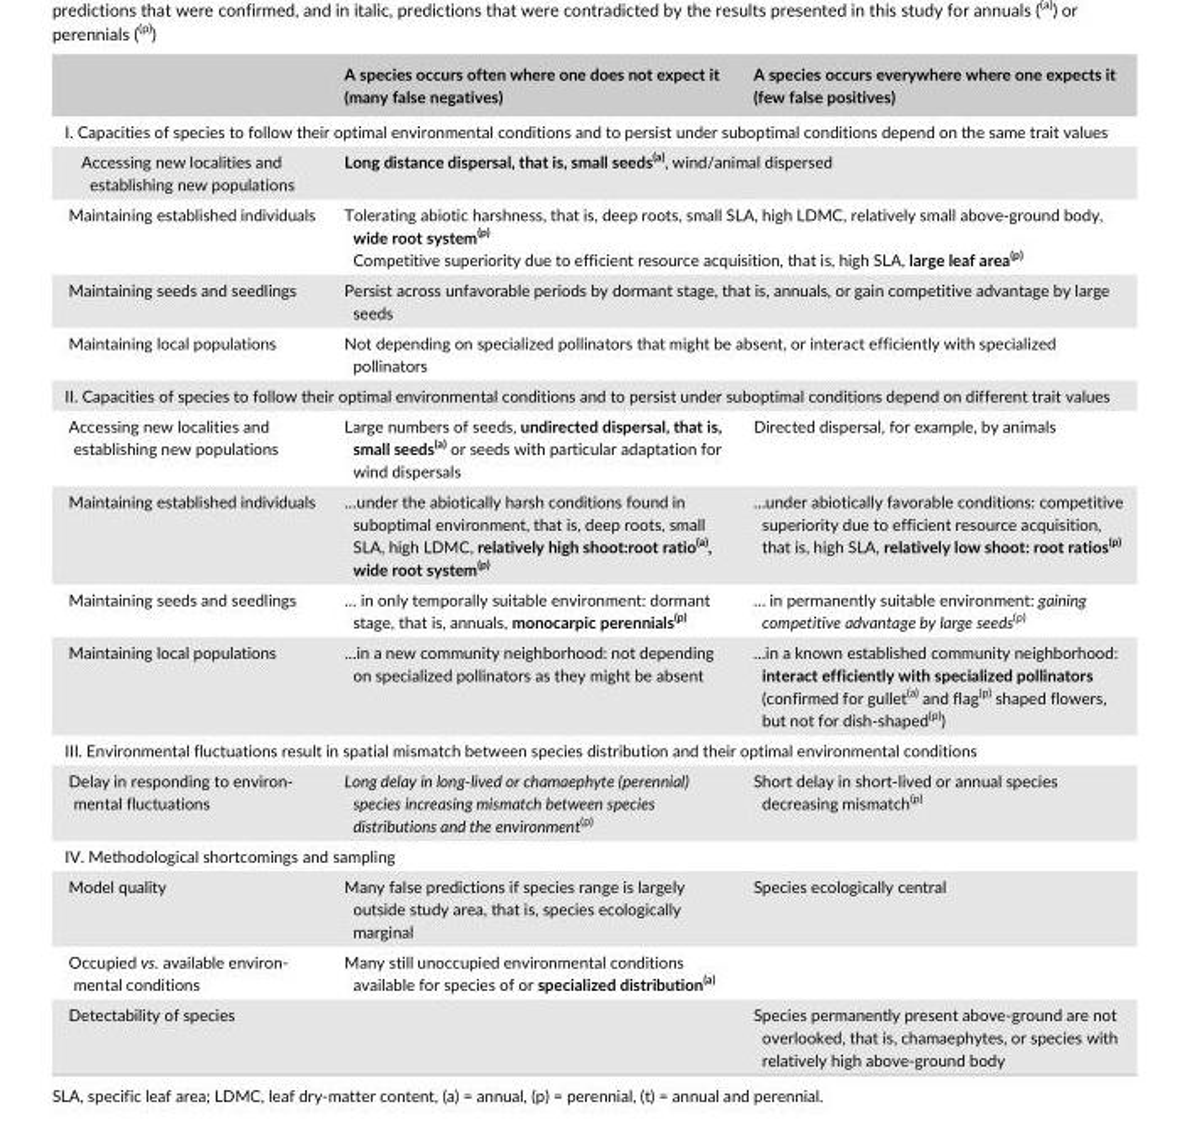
<table><thead><tr><td></td><td>A species occurs often where one does not expect it (many false negatives)</td><td>A species occurs everywhere where one expects it (few false positives)</td></tr></thead><tbody><tr><td colspan="3">I. Capacities of species to follow their optimal environmental conditions and to persist under suboptimal conditions depend on the same trait values</td></tr><tr><td>Accessing new localities and establishing new populations</td><td colspan="2">Long distance dispersal, that is, small seeds<sup>(a)</sup>, wind/animal dispersed</td></tr><tr><td>Maintaining established individuals</td><td colspan="2">Tolerating abiotic harshness, that is, deep roots, small SLA, high LDMC, relatively small above- ground body, wide root system<sup>(p)</sup> Competitive superiority due to efficient resource acquisition, that is, high SLA, large leaf area<sup>(p)</sup></td></tr><tr><td>Maintaining seeds and seedlings</td><td colspan="2">Persist across unfavorable periods by dormant stage, that is, annuals, or gain competitive advantage by large seeds</td></tr><tr><td>Maintaining local populations</td><td colspan="2">Not depending on specialized pollinators that might be absent, or interact efficiently with specialized pollinators</td></tr><tr><td colspan="3">II. Capacities of species to follow their optimal environmental conditions and to persist under suboptimal conditions depend on different trait values</td></tr><tr><td>Accessing new localities and establishing new populations</td><td>Large numbers of seeds, undirected dispersal, that is, small seeds<sup>(a)</sup> or seeds with particular adaptation for wind dispersals</td><td>Directed dispersal, for example, by animals</td></tr><tr><td>Maintaining established individuals</td><td>…under the abiotically harsh conditions found in suboptimal environment, that is, deep roots, small SLA, high LDMC, relatively high shoot:root ratio<sup>(a)</sup>, wide root system<sup>(p)</sup></td><td>…under abiotically favorable conditions: competitive superiority due to efficient resource acquisition, that is, high SLA, relatively low shoot: root ratios<sup>(p)</sup></td></tr><tr><td>Maintaining seeds and seedlings</td><td>… in only temporally suitable environment: dormant stage, that is, annuals, monocarpic perennials<sup>(p)</sup></td><td>… in permanently suitable environment: gaining competitive advantage by large seeds<sup>(p)</sup></td></tr><tr><td>Maintaining local populations</td><td>…in a new community neighborhood: not depending on specialized pollinators as they might be absent</td><td>…in a known established community neighborhood: interact efficiently with specialized pollinators (confirmed for gullet<sup>(a)</sup> and flag<sup>(p)</sup> shaped flowers, but not for dish- shaped<sup>(p)</sup>)</td></tr><tr><td colspan="3">III. Environmental fluctuations result in spatial mismatch between species distribution and their optimal environmental conditions</td></tr><tr><td>Delay in responding to environ- mental fluctuations</td><td>Long delay in long-lived or chamaephyte (perennial) species increasing mismatch between species distributions and the environment<sup>(p)</sup></td><td>Short delay in short- lived or annual species decreasing mismatch<sup>(p)</sup></td></tr><tr><td colspan="3">IV. Methodological shortcomings and sampling</td></tr><tr><td>Model quality</td><td>Many false predictions if species range is largely outside study area, that is, species ecologically marginal</td><td>Species ecologically central</td></tr><tr><td>Occupied vs. available environ- mental conditions</td><td>Many still unoccupied environmental conditions available for species of or specialized distribution<sup>(a)</sup></td><td></td></tr><tr><td>Detectability of species</td><td></td><td>Species permanently present above- ground are not overlooked, that is, chamaephytes, or species with relatively high above- ground body</td></tr></tbody></table>